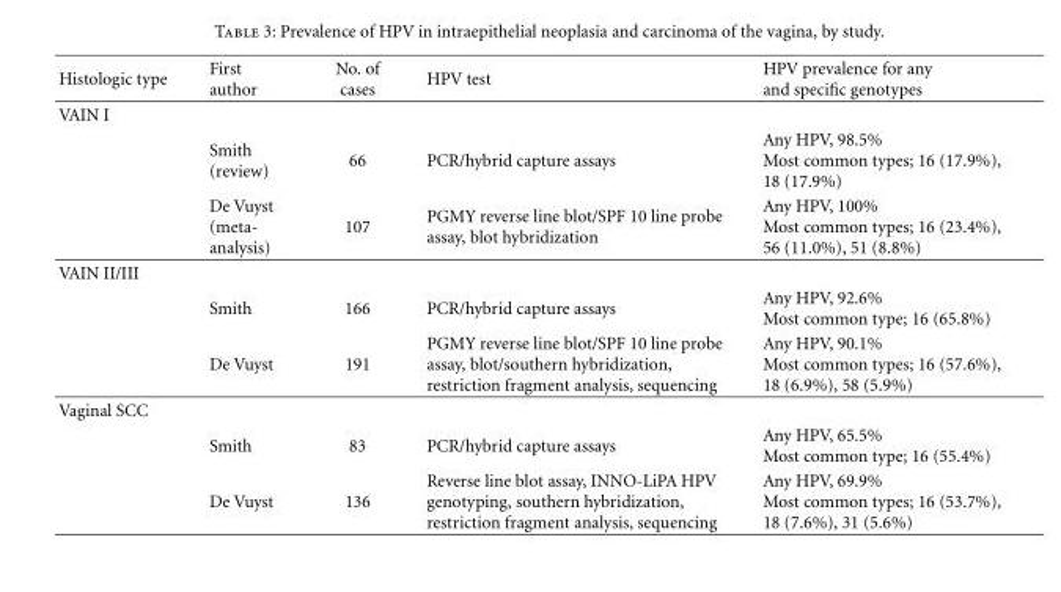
<table><thead><tr><td>Histologic type</td><td>First author</td><td>No. of cases</td><td>HPV test</td><td>HPV prevalence for any and specific genotypes</td></tr></thead><tbody><tr><td colspan="5">VAIN I</td></tr><tr><td rowspan="2"></td><td>Smith (review)</td><td>66</td><td>PCR/hybrid capture assays</td><td>Any HPV, 98.5% Most common types; 16 (17.9%), 18 (17.9%)</td></tr><tr><td>De Vuyst (meta- analysis)</td><td>107</td><td>PGMY reverse line blot/SPF 10 line probe assay, blot hybridization</td><td>Any HPV, 100% Most common types; 16 (23.4%), 56 (11.0%), 51 (8.8%)</td></tr><tr><td colspan="5">VAIN II/III</td></tr><tr><td rowspan="2"></td><td>Smith</td><td>166</td><td>PCR/hybrid capture assays</td><td>Any HPV, 92.6% Most common type; 16 (65.8%)</td></tr><tr><td>De Vuyst</td><td>191</td><td>PGMY reverse line blot/SPF 10 line probe assay, blot/southern hybridization, restriction fragment analysis, sequencing</td><td>Any HPV, 90.1% Most common types; 16 (57.6%), 18 (6.9%), 58 (5.9%)</td></tr><tr><td colspan="5">Vaginal SCC</td></tr><tr><td rowspan="2"></td><td>Smith</td><td>83</td><td>PCR/hybrid capture assays</td><td>Any HPV, 65.5% Most common type; 16 (55.4%)</td></tr><tr><td>De Vuyst</td><td>136</td><td>Reverse line blot assay, INNO-LiPA HPV genotyping, southern hybridization, restriction fragment analysis, sequencing</td><td>Any HPV, 69.9% Most common types; 16 (53.7%), 18 (7.6%), 31 (5.6%)</td></tr></tbody></table>